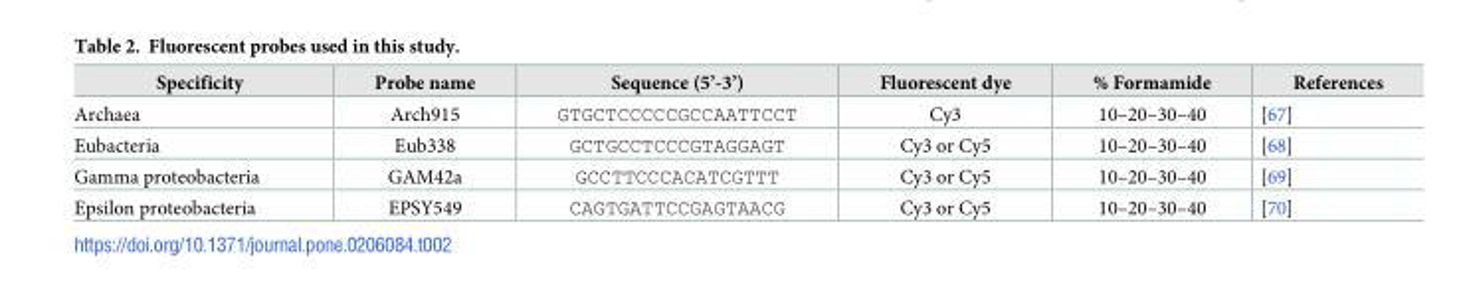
<table><thead><tr><td>Specificity</td><td>Probe name</td><td>Sequence (5’-3’)</td><td>Fluorescent dye</td><td>% Formamide</td><td>References</td></tr></thead><tbody><tr><td>Archaea</td><td>Arch915</td><td>GTGCTCCCCCGCCAATTCCT</td><td>Cy3</td><td>10–20–30–40</td><td>[67]</td></tr><tr><td>Eubacteria</td><td>Eub338</td><td>GCTGCCTCCCGTAGGAGT</td><td>Cy3 or Cy5</td><td>10–20–30–40</td><td>[68]</td></tr><tr><td>Gamma proteobacteria</td><td>GAM42a</td><td>GCCTTCCCACATCGTTT</td><td>Cy3 or Cy5</td><td>10–20–30–40</td><td>[69]</td></tr><tr><td>Epsilon proteobacteria</td><td>EPSY549</td><td>CAGTGATTCCGAGTAACG</td><td>Cy3 or Cy5</td><td>10–20–30–40</td><td>[70]</td></tr></tbody></table>